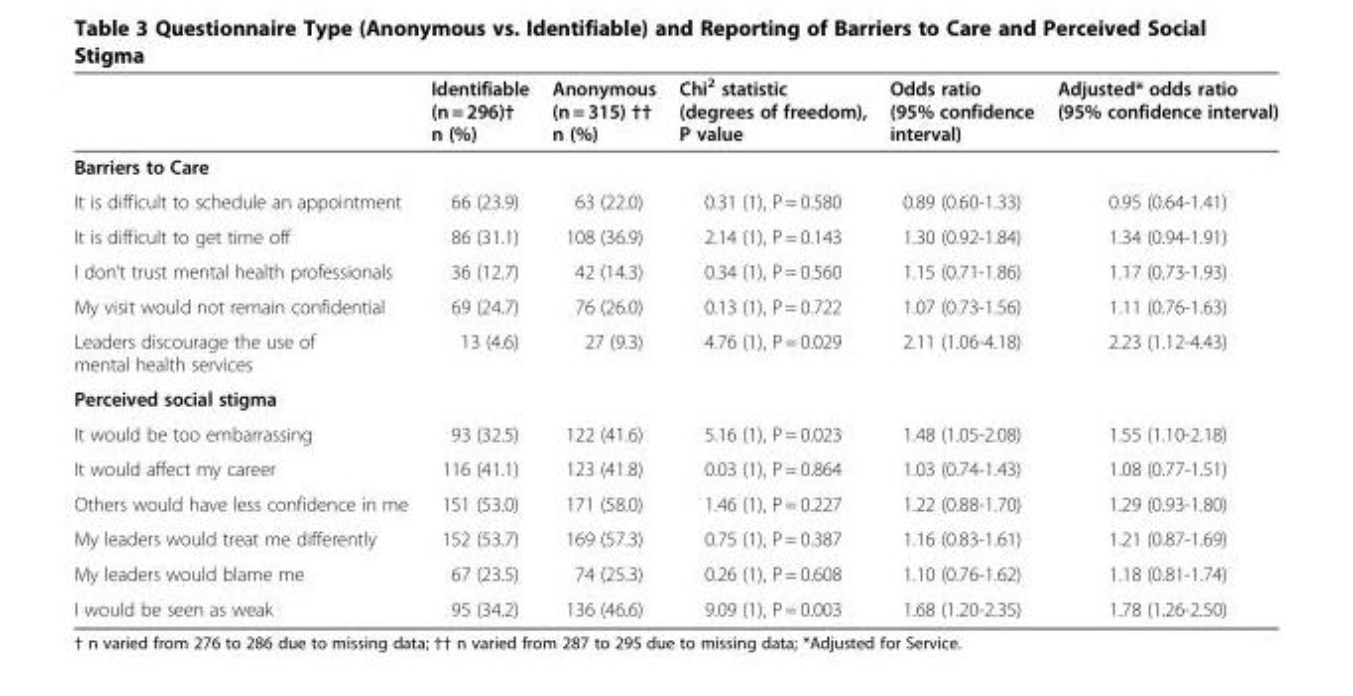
<table><thead><tr><td></td><td>Identifiable (n = 296)† n (%)</td><td>Anonymous (n = 315) †† n (%)</td><td>Chi<sup>2</sup> statistic (degrees of freedom), P value</td><td>Odds ratio (95% confidence interval)</td><td>Adjusted* odds ratio (95% confidence interval)</td></tr></thead><tbody><tr><td colspan="6">Barriers to Care</td></tr><tr><td>It is difficult to schedule an appointment</td><td>66 (23.9)</td><td>63 (22.0)</td><td>0.31 (1), P = 0.580</td><td>0.89 (0.60-1.33)</td><td>0.95 (0.64-1.41)</td></tr><tr><td>It is difficult to get time off</td><td>86 (31.1)</td><td>108 (36.9)</td><td>2.14 (1), P = 0.143</td><td>1.30 (0.92-1.84)</td><td>1.34 (0.94-1.91)</td></tr><tr><td>I don’t trust mental health professionals</td><td>36 (12.7)</td><td>42 (14.3)</td><td>0.34 (1), P = 0.560</td><td>1.15 (0.71-1.86)</td><td>1.17 (0.73-1.93)</td></tr><tr><td>My visit would not remain confidential</td><td>69 (24.7)</td><td>76 (26.0)</td><td>0.13 (1), P = 0.722</td><td>1.07 (0.73-1.56)</td><td>1.11 (0.76-1.63)</td></tr><tr><td>Leaders discourage the use of mental health services</td><td>13 (4.6)</td><td>27 (9.3)</td><td>4.76 (1), P = 0.029</td><td>2.11 (1.06-4.18)</td><td>2.23 (1.12-4.43)</td></tr><tr><td colspan="6">Perceived social stigma</td></tr><tr><td>It would be too embarrassing</td><td>93 (32.5)</td><td>122 (41.6)</td><td>5.16 (1), P = 0.023</td><td>1.48 (1.05-2.08)</td><td>1.55 (1.10-2.18)</td></tr><tr><td>It would affect my career</td><td>116 (41.1)</td><td>123 (41.8)</td><td>0.03 (1), P = 0.864</td><td>1.03 (0.74-1.43)</td><td>1.08 (0.77-1.51)</td></tr><tr><td>Others would have less confidence in me</td><td>151 (53.0)</td><td>171 (58.0)</td><td>1.46 (1), P = 0.227</td><td>1.22 (0.88-1.70)</td><td>1.29 (0.93-1.80)</td></tr><tr><td>My leaders would treat me differently</td><td>152 (53.7)</td><td>169 (57.3)</td><td>0.75 (1), P = 0.387</td><td>1.16 (0.83-1.61)</td><td>1.21 (0.87-1.69)</td></tr><tr><td>My leaders would blame me</td><td>67 (23.5)</td><td>74 (25.3)</td><td>0.26 (1), P = 0.608</td><td>1.10 (0.76-1.62)</td><td>1.18 (0.81-1.74)</td></tr><tr><td>I would be seen as weak</td><td>95 (34.2)</td><td>136 (46.6)</td><td>9.09 (1), P = 0.003</td><td>1.68 (1.20-2.35)</td><td>1.78 (1.26-2.50)</td></tr></tbody></table>